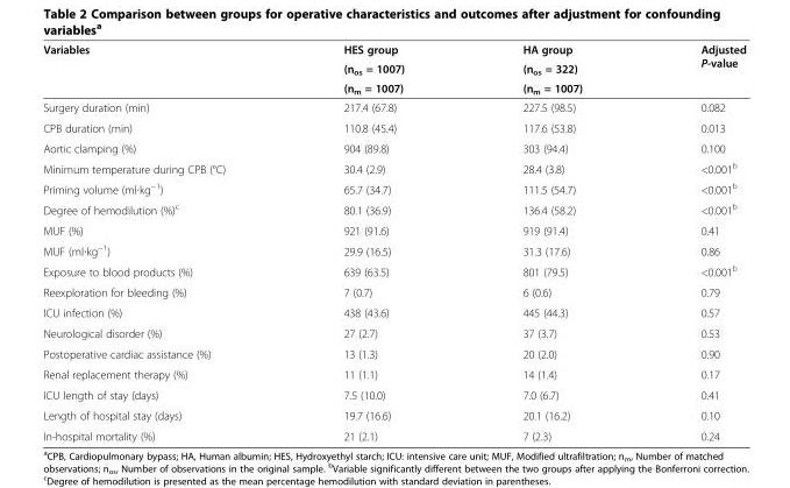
<table><thead><tr><td rowspan="3">Variables</td><td rowspan="3">HES group (n<sub>os</sub> = 1007) (n<sub>m</sub> = 1007)</td><td rowspan="3">HA group (n<sub>os</sub> = 322) (n<sub>m</sub> = 1007)</td><td rowspan="3">Adjusted P-value</td></tr><tr></tr><tr></tr></thead><tbody><tr><td>Surgery duration (min)</td><td>217.4 (67.8)</td><td>227.5 (98.5)</td><td>0.082</td></tr><tr><td>CPB duration (min)</td><td>110.8 (45.4)</td><td>117.6 (53.8)</td><td>0.013</td></tr><tr><td>Aortic clamping (%)</td><td>904 (89.8)</td><td>303 (94.4)</td><td>0.100</td></tr><tr><td>Minimum temperature during CPB (°C)</td><td>30.4 (2.9)</td><td>28.4 (3.8)</td><td>&lt;0.001<sup>b</sup></td></tr><tr><td>Priming volume (ml∙kg<sup>−1</sup>)</td><td>65.7 (34.7)</td><td>111.5 (54.7)</td><td>&lt;0.001<sup>b</sup></td></tr><tr><td>Degree of hemodilution (%)<sup>c</sup></td><td>80.1 (36.9)</td><td>136.4 (58.2)</td><td>&lt;0.001<sup>b</sup></td></tr><tr><td>MUF (%)</td><td>921 (91.6)</td><td>919 (91.4)</td><td>0.41</td></tr><tr><td>MUF (ml∙kg<sup>−1</sup>)</td><td>29.9 (16.5)</td><td>31.3 (17.6)</td><td>0.86</td></tr><tr><td>Exposure to blood products (%)</td><td>639 (63.5)</td><td>801 (79.5)</td><td>&lt;0.001<sup>b</sup></td></tr><tr><td>Reexploration for bleeding (%)</td><td>7 (0.7)</td><td>6 (0.6)</td><td>0.79</td></tr><tr><td>ICU infection (%)</td><td>438 (43.6)</td><td>445 (44.3)</td><td>0.57</td></tr><tr><td>Neurological disorder (%)</td><td>27 (2.7)</td><td>37 (3.7)</td><td>0.53</td></tr><tr><td>Postoperative cardiac assistance (%)</td><td>13 (1.3)</td><td>20 (2.0)</td><td>0.90</td></tr><tr><td>Renal replacement therapy (%)</td><td>11 (1.1)</td><td>14 (1.4)</td><td>0.17</td></tr><tr><td>ICU length of stay (days)</td><td>7.5 (10.0)</td><td>7.0 (6.7)</td><td>0.41</td></tr><tr><td>Length of hospital stay (days)</td><td>19.7 (16.6)</td><td>20.1 (16.2)</td><td>0.10</td></tr><tr><td>In-hospital mortality (%)</td><td>21 (2.1)</td><td>7 (2.3)</td><td>0.24</td></tr></tbody></table>